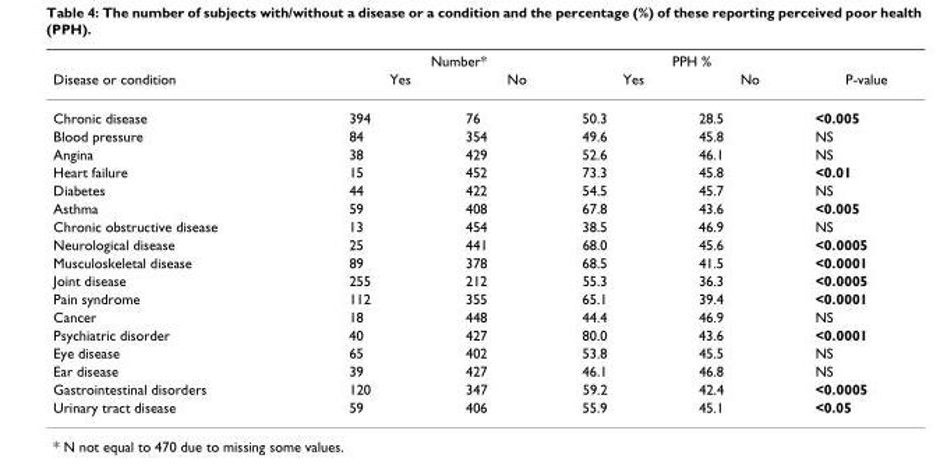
<table><thead><tr><td rowspan="2">Disease or condition</td><td colspan="2">Number*</td><td colspan="2">PPH %</td><td rowspan="2">P-value</td></tr><tr><td>Yes</td><td>No</td><td>Yes</td><td>No</td></tr></thead><tbody><tr><td>Chronic disease</td><td>394</td><td>76</td><td>50.3</td><td>28.5</td><td>&lt;0.005</td></tr><tr><td>Blood pressure</td><td>84</td><td>354</td><td>49.6</td><td>45.8</td><td>NS</td></tr><tr><td>Angina</td><td>38</td><td>429</td><td>52.6</td><td>46.1</td><td>NS</td></tr><tr><td>Heart failure</td><td>15</td><td>452</td><td>73.3</td><td>45.8</td><td>&lt;0.01</td></tr><tr><td>Diabetes</td><td>44</td><td>422</td><td>54.5</td><td>45.7</td><td>NS</td></tr><tr><td>Asthma</td><td>59</td><td>408</td><td>67.8</td><td>43.6</td><td>&lt;0.005</td></tr><tr><td>Chronic obstructive disease</td><td>13</td><td>454</td><td>38.5</td><td>46.9</td><td>NS</td></tr><tr><td>Neurological disease</td><td>25</td><td>441</td><td>68.0</td><td>45.6</td><td>&lt;0.0005</td></tr><tr><td>Musculoskeletal disease</td><td>89</td><td>378</td><td>68.5</td><td>41.5</td><td>&lt;0.0001</td></tr><tr><td>Joint disease</td><td>255</td><td>212</td><td>55.3</td><td>36.3</td><td>&lt;0.0005</td></tr><tr><td>Pain syndrome</td><td>112</td><td>355</td><td>65.1</td><td>39.4</td><td>&lt;0.0001</td></tr><tr><td>Cancer</td><td>18</td><td>448</td><td>44.4</td><td>46.9</td><td>NS</td></tr><tr><td>Psychiatric disorder</td><td>40</td><td>427</td><td>80.0</td><td>43.6</td><td>&lt;0.0001</td></tr><tr><td>Eye disease</td><td>65</td><td>402</td><td>53.8</td><td>45.5</td><td>NS</td></tr><tr><td>Ear disease</td><td>39</td><td>427</td><td>46.1</td><td>46.8</td><td>NS</td></tr><tr><td>Gastrointestinal disorders</td><td>120</td><td>347</td><td>59.2</td><td>42.4</td><td>&lt;0.0005</td></tr><tr><td>Urinary tract disease</td><td>59</td><td>406</td><td>55.9</td><td>45.1</td><td>&lt;0.05</td></tr></tbody></table>